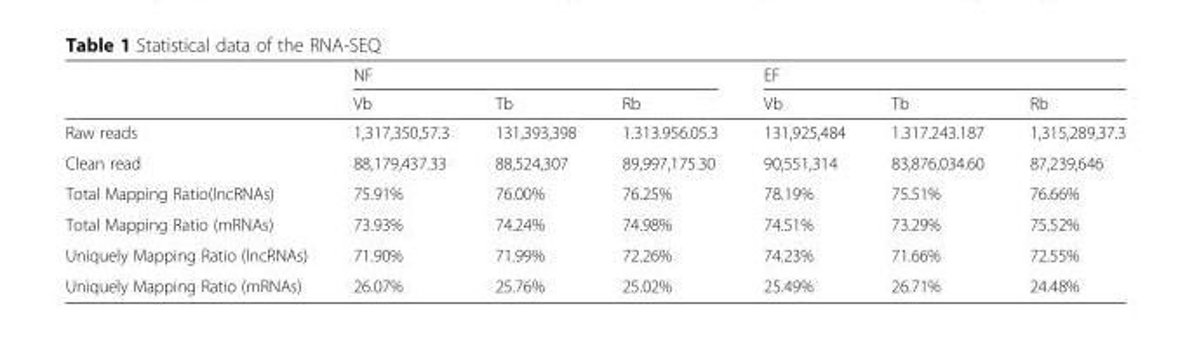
<table><thead><tr><td rowspan="2"></td><td colspan="3">NF</td><td colspan="3">EF</td></tr><tr><td>Vb</td><td>Tb</td><td>Rb</td><td>Vb</td><td>Tb</td><td>Rb</td></tr></thead><tbody><tr><td>Raw reads</td><td>1,317,350,57.3</td><td>131,393,398</td><td>1.313.956.05.3</td><td>131,925,484</td><td>1.317.243.187</td><td>1,315,289,37.3</td></tr><tr><td>Clean read</td><td>88,179,437.33</td><td>88,524,307</td><td>89,997,175.30</td><td>90,551,314</td><td>83,876,034.60</td><td>87,239,646</td></tr><tr><td>Total Mapping Ratio(lncRNAs)</td><td>75.91%</td><td>76.00%</td><td>76.25%</td><td>78.19%</td><td>75.51%</td><td>76.66%</td></tr><tr><td>Total Mapping Ratio (mRNAs)</td><td>73.93%</td><td>74.24%</td><td>74.98%</td><td>74.51%</td><td>73.29%</td><td>75.52%</td></tr><tr><td>Uniquely Mapping Ratio (lncRNAs)</td><td>71.90%</td><td>71.99%</td><td>72.26%</td><td>74.23%</td><td>71.66%</td><td>72.55%</td></tr><tr><td>Uniquely Mapping Ratio (mRNAs)</td><td>26.07%</td><td>25.76%</td><td>25.02%</td><td>25.49%</td><td>26.71%</td><td>24.48%</td></tr></tbody></table>